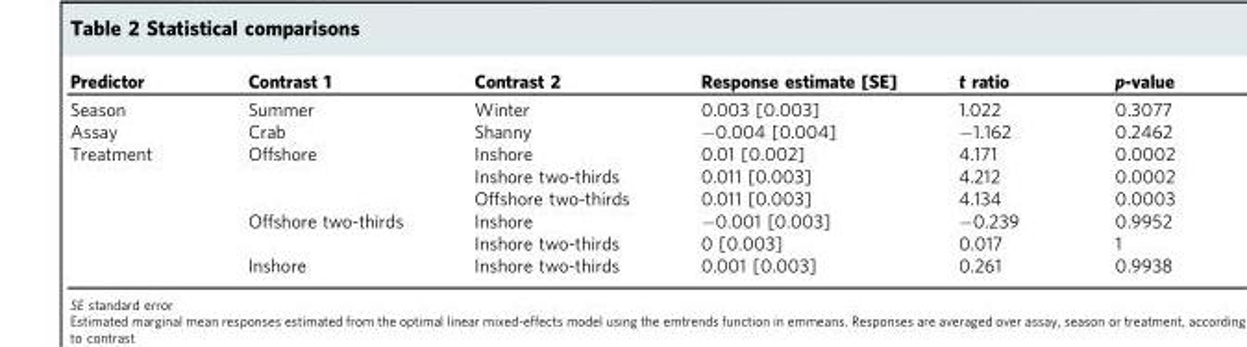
<table><thead><tr><td>Predictor</td><td>Contrast 1</td><td>Contrast 2</td><td>Response estimate [SE]</td><td>t ratio</td><td>p-value</td></tr></thead><tbody><tr><td>Season</td><td>Summer</td><td>Winter</td><td>0.003 [0.003]</td><td>1.022</td><td>0.3077</td></tr><tr><td>Assay</td><td>Crab</td><td>Shanny</td><td>−0.004 [0.004]</td><td>−1.162</td><td>0.2462</td></tr><tr><td rowspan="6">Treatment</td><td rowspan="3">Offshore</td><td>Inshore</td><td>0.01 [0.002]</td><td>4.171</td><td>0.0002</td></tr><tr><td>Inshore two-thirds</td><td>0.011 [0.003]</td><td>4.212</td><td>0.0002</td></tr><tr><td>Offshore two-thirds</td><td>0.011 [0.003]</td><td>4.134</td><td>0.0003</td></tr><tr><td rowspan="2">Offshore two-thirds</td><td>Inshore</td><td>−0.001 [0.003]</td><td>−0.239</td><td>0.9952</td></tr><tr><td>Inshore two-thirds</td><td>0 [0.003]</td><td>0.017</td><td>1</td></tr><tr><td>Inshore</td><td>Inshore two-thirds</td><td>0.001 [0.003]</td><td>0.261</td><td>0.9938</td></tr></tbody></table>